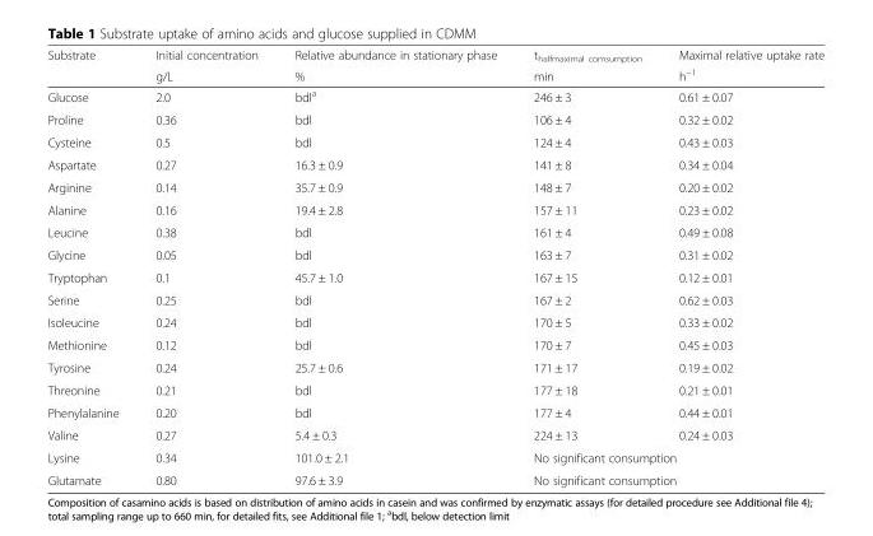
<table><thead><tr><td rowspan="2">Substrate</td><td rowspan="2">Initial concentration g/L</td><td rowspan="2">Relative abundance in stationary phase %</td><td rowspan="2">t<sub>halfmaximal comsumption</sub> min</td><td rowspan="2">Maximal relative uptake rate h<sup>−1</sup></td></tr><tr></tr></thead><tbody><tr><td>Glucose</td><td>2.0</td><td>bdl<sup>a</sup></td><td>246 ± 3</td><td>0.61 ± 0.07</td></tr><tr><td>Proline</td><td>0.36</td><td>bdl</td><td>106 ± 4</td><td>0.32 ± 0.02</td></tr><tr><td>Cysteine</td><td>0.5</td><td>bdl</td><td>124 ± 4</td><td>0.43 ± 0.03</td></tr><tr><td>Aspartate</td><td>0.27</td><td>16.3 ± 0.9</td><td>141 ± 8</td><td>0.34 ± 0.04</td></tr><tr><td>Arginine</td><td>0.14</td><td>35.7 ± 0.9</td><td>148 ± 7</td><td>0.20 ± 0.02</td></tr><tr><td>Alanine</td><td>0.16</td><td>19.4 ± 2.8</td><td>157 ± 11</td><td>0.23 ± 0.02</td></tr><tr><td>Leucine</td><td>0.38</td><td>bdl</td><td>161 ± 4</td><td>0.49 ± 0.08</td></tr><tr><td>Glycine</td><td>0.05</td><td>bdl</td><td>163 ± 7</td><td>0.31 ± 0.02</td></tr><tr><td>Tryptophan</td><td>0.1</td><td>45.7 ± 1.0</td><td>167 ± 15</td><td>0.12 ± 0.01</td></tr><tr><td>Serine</td><td>0.25</td><td>bdl</td><td>167 ± 2</td><td>0.62 ± 0.03</td></tr><tr><td>Isoleucine</td><td>0.24</td><td>bdl</td><td>170 ± 5</td><td>0.33 ± 0.02</td></tr><tr><td>Methionine</td><td>0.12</td><td>bdl</td><td>170 ± 7</td><td>0.45 ± 0.03</td></tr><tr><td>Tyrosine</td><td>0.24</td><td>25.7 ± 0.6</td><td>171 ± 17</td><td>0.19 ± 0.02</td></tr><tr><td>Threonine</td><td>0.21</td><td>bdl</td><td>177 ± 18</td><td>0.21 ± 0.01</td></tr><tr><td>Phenylalanine</td><td>0.20</td><td>bdl</td><td>177 ± 4</td><td>0.44 ± 0.01</td></tr><tr><td>Valine</td><td>0.27</td><td>5.4 ± 0.3</td><td>224 ± 13</td><td>0.24 ± 0.03</td></tr><tr><td>Lysine</td><td>0.34</td><td>101.0 ± 2.1</td><td colspan="2">No significant consumption</td></tr><tr><td>Glutamate</td><td>0.80</td><td>97.6 ± 3.9</td><td colspan="2">No significant consumption</td></tr></tbody></table>